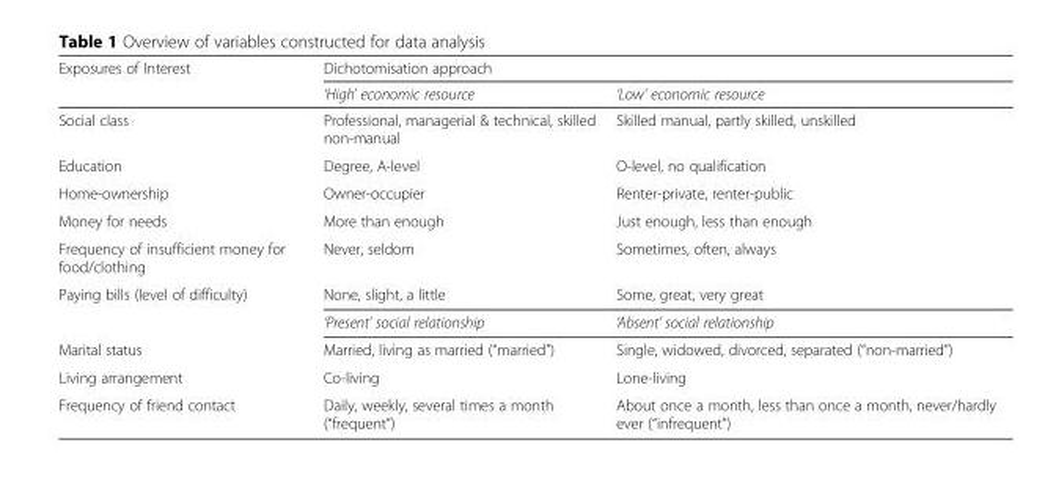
<table><thead><tr><td rowspan="2">Exposures of Interest</td><td colspan="2">Dichotomisation approach</td></tr><tr><td>‘High’ economic resource</td><td>‘Low’ economic resource</td></tr></thead><tbody><tr><td>Social class</td><td>Professional, managerial &amp; technical, skilled non-manual</td><td>Skilled manual, partly skilled, unskilled</td></tr><tr><td>Education</td><td>Degree, A-level</td><td>O-level, no qualification</td></tr><tr><td>Home-ownership</td><td>Owner-occupier</td><td>Renter-private, renter-public</td></tr><tr><td>Money for needs</td><td>More than enough</td><td>Just enough, less than enough</td></tr><tr><td>Frequency of insufficient money for food/clothing</td><td>Never, seldom</td><td>Sometimes, often, always</td></tr><tr><td rowspan="2">Paying bills (level of difficulty)</td><td>None, slight, a little</td><td>Some, great, very great</td></tr><tr><td>‘Present’ social relationship</td><td>‘Absent’ social relationship</td></tr><tr><td>Marital status</td><td>Married, living as married (“married”)</td><td>Single, widowed, divorced, separated (“non-married”)</td></tr><tr><td>Living arrangement</td><td>Co-living</td><td>Lone-living</td></tr><tr><td>Frequency of friend contact</td><td>Daily, weekly, several times a month (“frequent”)</td><td>About once a month, less than once a month, never/hardly ever (“infrequent”)</td></tr></tbody></table>